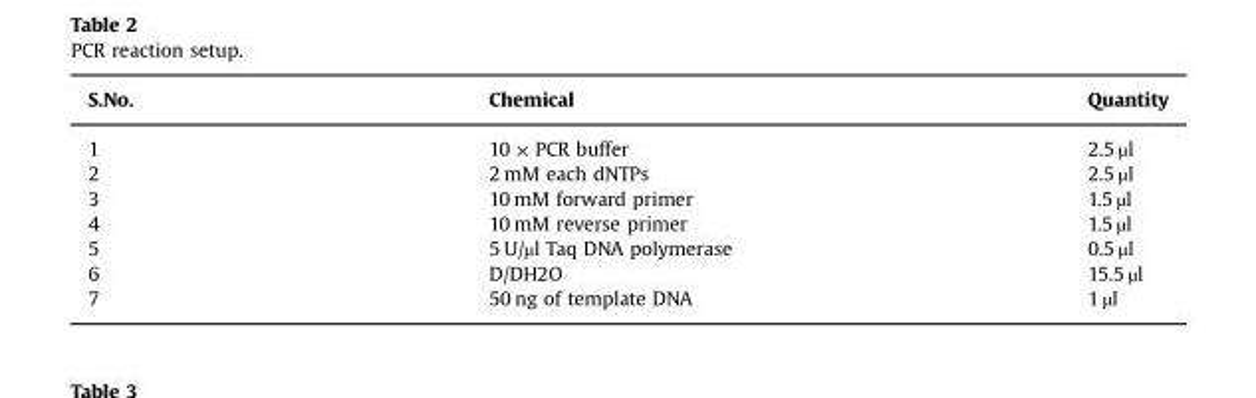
<table><thead><tr><td>S.No.</td><td>Chemical</td><td>Quantity</td></tr></thead><tbody><tr><td>1</td><td>10 × PCR buffer</td><td>2.5 µl</td></tr><tr><td>2</td><td>2 mM each dNTPs</td><td>2.5 µl</td></tr><tr><td>3</td><td>10 mM forward primer</td><td>1.5 µl</td></tr><tr><td>4</td><td>10 mM reverse primer</td><td>1.5 µl</td></tr><tr><td>5</td><td>5 U/µl Taq DNA polymerase</td><td>0.5 µl</td></tr><tr><td>6</td><td>D/DH2O</td><td>15.5 µl</td></tr><tr><td>7</td><td>50 ng of template DNA</td><td>1 µl</td></tr></tbody></table>